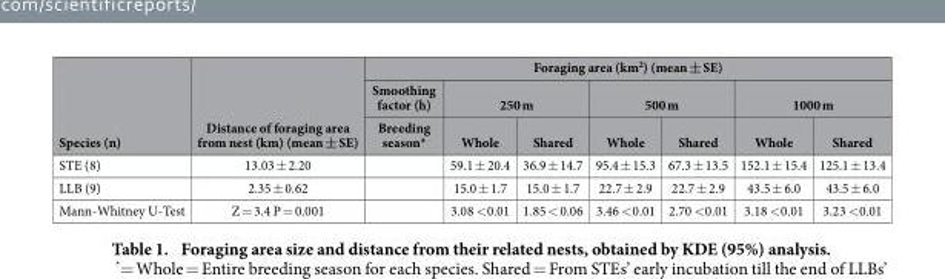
<table><thead><tr><td rowspan="3">Species (n)</td><td rowspan="3">Distance of foraging area from nest (km) (mean ± SE)</td><td colspan="7">Foraging area (km<sup>2</sup>) (mean ± SE)</td></tr><tr><td rowspan="2">Smoothing factor (h) Breeding season*</td><td colspan="2">250 m</td><td colspan="2">500 m</td><td colspan="2">1000 m</td></tr><tr><td>Whole</td><td>Shared</td><td>Whole</td><td>Shared</td><td>Whole</td><td>Shared</td></tr></thead><tbody><tr><td>STE (8)</td><td>13.03 ± 2.20</td><td></td><td>59.1 ± 20.4</td><td>36.9 ± 14.7</td><td>95.4 ± 15.3</td><td>67.3 ± 13.5</td><td>152.1 ± 15.4</td><td>125.1 ± 13.4</td></tr><tr><td>LLB (9)</td><td>2.35 ± 0.62</td><td></td><td>15.0 ± 1.7</td><td>15.0 ± 1.7</td><td>22.7 ± 2.9</td><td>22.7 ± 2.9</td><td>43.5 ± 6.0</td><td>43.5 ± 6.0</td></tr><tr><td>Mann-Whitney U-Test</td><td>Z = 3.4 P = 0.001</td><td></td><td>3.08 &lt; 0.01</td><td>1.85 &lt; 0.06</td><td>3.46 &lt; 0.01</td><td>2.70 &lt; 0.01</td><td>3.18 &lt; 0.01</td><td>3.23 &lt; 0.01</td></tr></tbody></table>